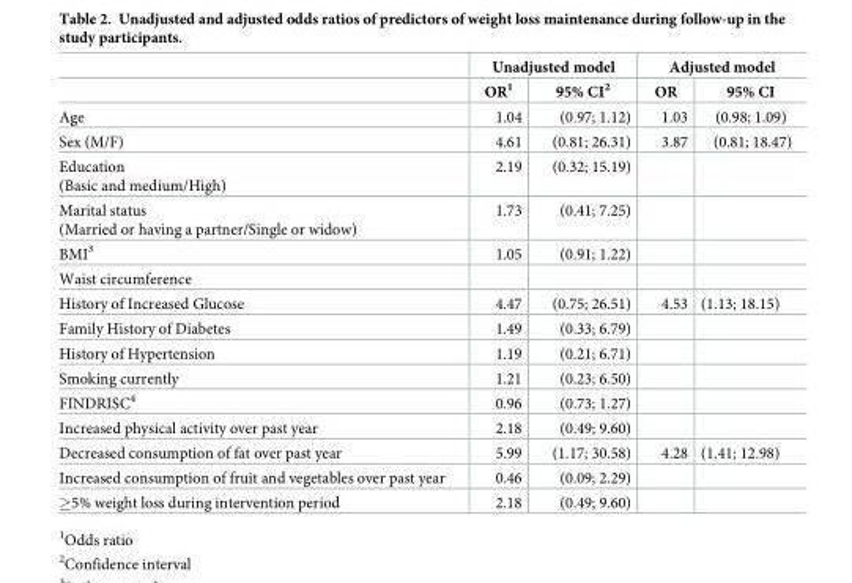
<table><thead><tr><td rowspan="2"></td><td colspan="2">Unadjusted model</td><td colspan="2">Adjusted model</td></tr><tr><td>OR<sup>1</sup></td><td>95% CI<sup>2</sup></td><td>OR</td><td>95% CI</td></tr></thead><tbody><tr><td>Age</td><td>1.04</td><td>(0.97; 1.12)</td><td>1.03</td><td>(0.98; 1.09)</td></tr><tr><td>Sex (M/F)</td><td>4.61</td><td>(0.81; 26.31)</td><td>3.87</td><td>(0.81; 18.47)</td></tr><tr><td>Education (Basic and medium/High)</td><td>2.19</td><td>(0.32; 15.19)</td><td></td><td></td></tr><tr><td>Marital status (Married or having a partner/Single or widow)</td><td>1.73</td><td>(0.41; 7.25)</td><td></td><td></td></tr><tr><td>BMI<sup>3</sup></td><td>1.05</td><td>(0.91; 1.22)</td><td></td><td></td></tr><tr><td colspan="5">Waist circumference</td></tr><tr><td>History of Increased Glucose</td><td>4.47</td><td>(0.75; 26.51)</td><td>4.53</td><td>(1.13; 18.15)</td></tr><tr><td>Family History of Diabetes</td><td>1.49</td><td>(0.33; 6.79)</td><td></td><td></td></tr><tr><td>History of Hypertension</td><td>1.19</td><td>(0.21; 6.71)</td><td></td><td></td></tr><tr><td>Smoking currently</td><td>1.21</td><td>(0.23; 6.50)</td><td></td><td></td></tr><tr><td>FINDRISC<sup>4</sup></td><td>0.96</td><td>(0.73; 1.27)</td><td></td><td></td></tr><tr><td>Increased physical activity over past year</td><td>2.18</td><td>(0.49; 9.60)</td><td></td><td></td></tr><tr><td>Decreased consumption of fat over past year</td><td>5.99</td><td>(1.17; 30.58)</td><td>4.28</td><td>(1.41; 12.98)</td></tr><tr><td>Increased consumption of fruit and vegetables over past year</td><td>0.46</td><td>(0.09; 2.29)</td><td></td><td></td></tr><tr><td>≥5% weight loss during intervention period</td><td>2.18</td><td>(0.49; 9.60)</td><td></td><td></td></tr></tbody></table>